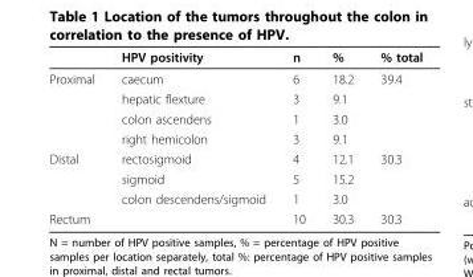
<table><thead><tr><td></td><td>HPV positivity</td><td>n</td><td>%</td><td>% total</td></tr></thead><tbody><tr><td rowspan="4">Proximal</td><td>caecum</td><td>6</td><td>18.2</td><td>39.4</td></tr><tr><td>hepatic flexture</td><td>3</td><td>9.1</td><td></td></tr><tr><td>colon ascendens</td><td>1</td><td>3.0</td><td></td></tr><tr><td>right hemicolon</td><td>3</td><td>9.1</td><td></td></tr><tr><td rowspan="3">Distal</td><td>rectosigmoid</td><td>4</td><td>12.1</td><td>30.3</td></tr><tr><td>sigmoid</td><td>5</td><td>15.2</td><td></td></tr><tr><td>colon descendens/sigmoid</td><td>1</td><td>3.0</td><td></td></tr><tr><td>Rectum</td><td></td><td>10</td><td>30.3</td><td>30.3</td></tr></tbody></table>